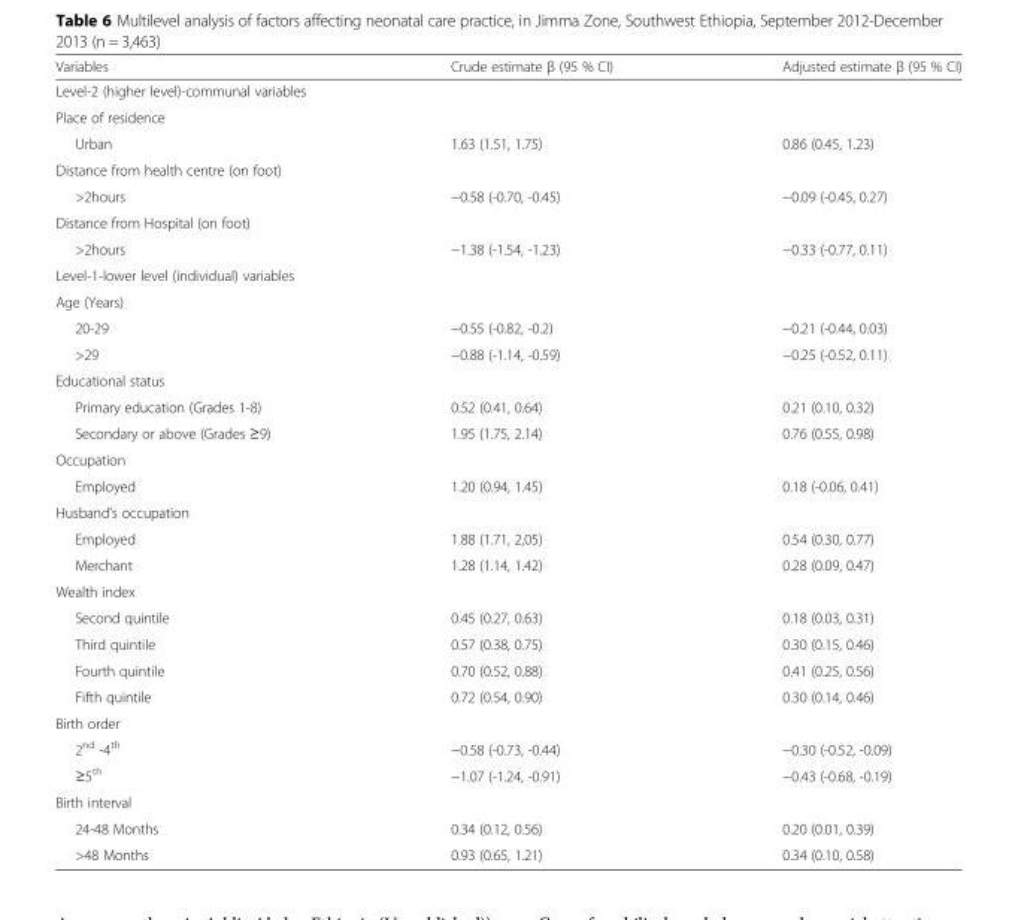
<table><thead><tr><td>Variables</td><td>Crude estimate β (95 % CI)</td><td>Adjusted estimate β (95 % CI)</td></tr></thead><tbody><tr><td colspan="3">Level-2 (higher level)-communal variables</td></tr><tr><td colspan="3">Place of residence</td></tr><tr><td>Urban</td><td>1.63 (1.51, 1.75)</td><td>0.86 (0.45, 1.23)</td></tr><tr><td colspan="3">Distance from health centre (on foot)</td></tr><tr><td>&gt;2hours</td><td>−0.58 (-0.70, -0.45)</td><td>−0.09 (-0.45, 0.27)</td></tr><tr><td colspan="3">Distance from Hospital (on foot)</td></tr><tr><td>&gt;2hours</td><td>−1.38 (-1.54, -1.23)</td><td>−0.33 (-0.77, 0.11)</td></tr><tr><td colspan="3">Level-1-lower level (individual) variables</td></tr><tr><td colspan="3">Age (Years)</td></tr><tr><td>20-29</td><td>−0.55 (-0.82, -0.2)</td><td>−0.21 (-0.44, 0.03)</td></tr><tr><td>&gt;29</td><td>−0.88 (-1.14, -0.59)</td><td>−0.25 (-0.52, 0.11)</td></tr><tr><td colspan="3">Educational status</td></tr><tr><td>Primary education (Grades 1-8)</td><td>0.52 (0.41, 0.64)</td><td>0.21 (0.10, 0.32)</td></tr><tr><td>Secondary or above (Grades ≥9)</td><td>1.95 (1.75, 2.14)</td><td>0.76 (0.55, 0.98)</td></tr><tr><td colspan="3">Occupation</td></tr><tr><td>Employed</td><td>1.20 (0.94, 1.45)</td><td>0.18 (-0.06, 0.41)</td></tr><tr><td colspan="3">Husband’s occupation</td></tr><tr><td>Employed</td><td>1.88 (1.71, 2,05)</td><td>0.54 (0.30, 0.77)</td></tr><tr><td>Merchant</td><td>1.28 (1.14, 1.42)</td><td>0.28 (0.09, 0.47)</td></tr><tr><td colspan="3">Wealth index</td></tr><tr><td>Second quintile</td><td>0.45 (0.27, 0.63)</td><td>0.18 (0.03, 0.31)</td></tr><tr><td>Third quintile</td><td>0.57 (0.38, 0.75)</td><td>0.30 (0.15, 0.46)</td></tr><tr><td>Fourth quintile</td><td>0.70 (0.52, 0.88)</td><td>0.41 (0.25, 0.56)</td></tr><tr><td>Fifth quintile</td><td>0.72 (0.54, 0.90)</td><td>0.30 (0.14, 0.46)</td></tr><tr><td colspan="3">Birth order</td></tr><tr><td>2<sup>nd</sup> -4<sup>th</sup></td><td>−0.58 (-0.73, -0.44)</td><td>−0.30 (-0.52, -0.09)</td></tr><tr><td>≥5<sup>th</sup></td><td>−1.07 (-1.24, -0.91)</td><td>−0.43 (-0.68, -0.19)</td></tr><tr><td colspan="3">Birth interval</td></tr><tr><td>24-48 Months</td><td>0.34 (0.12, 0.56)</td><td>0.20 (0.01, 0.39)</td></tr><tr><td>&gt;48 Months</td><td>0.93 (0.65, 1.21)</td><td>0.34 (0.10, 0.58)</td></tr></tbody></table>